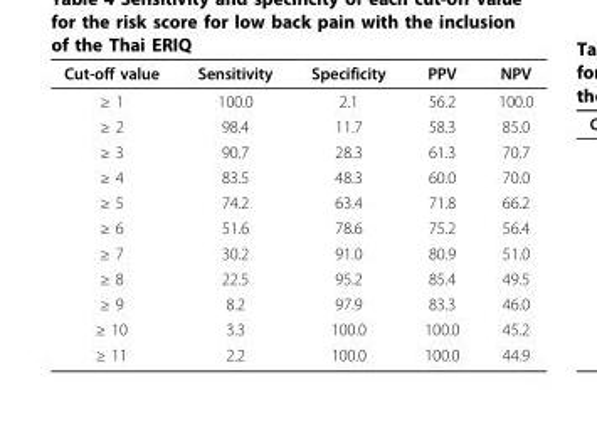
<table><thead><tr><td>Cut-off value</td><td>Sensitivity</td><td>Specificity</td><td>PPV</td><td>NPV</td></tr></thead><tbody><tr><td>≥ 1</td><td>100.0</td><td>2.1</td><td>56.2</td><td>100.0</td></tr><tr><td>≥ 2</td><td>98.4</td><td>11.7</td><td>58.3</td><td>85.0</td></tr><tr><td>≥ 3</td><td>90.7</td><td>28.3</td><td>61.3</td><td>70.7</td></tr><tr><td>≥ 4</td><td>83.5</td><td>48.3</td><td>60.0</td><td>70.0</td></tr><tr><td>≥ 5</td><td>74.2</td><td>63.4</td><td>71.8</td><td>66.2</td></tr><tr><td>≥ 6</td><td>51.6</td><td>78.6</td><td>75.2</td><td>56.4</td></tr><tr><td>≥ 7</td><td>30.2</td><td>91.0</td><td>80.9</td><td>51.0</td></tr><tr><td>≥ 8</td><td>22.5</td><td>95.2</td><td>85.4</td><td>49.5</td></tr><tr><td>≥ 9</td><td>8.2</td><td>97.9</td><td>83.3</td><td>46.0</td></tr><tr><td>≥ 10</td><td>3.3</td><td>100.0</td><td>100.0</td><td>45.2</td></tr><tr><td>≥ 11</td><td>2.2</td><td>100.0</td><td>100.0</td><td>44.9</td></tr></tbody></table>